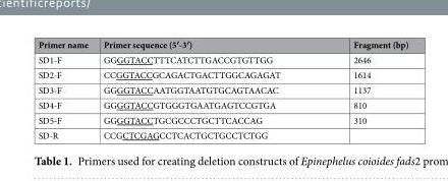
<table><thead><tr><td>Primer name</td><td>Primer sequence (5′-3′)</td><td>Fragment (bp)</td></tr></thead><tbody><tr><td>SD1-F</td><td>GGGGTACCTTTCATCTTGACCGTGTTGG</td><td>2646</td></tr><tr><td>SD2-F</td><td>CCGGTACCGCAGACTGACTTGGCAGAGAT</td><td>1614</td></tr><tr><td>SD3-F</td><td>GGGGTACCAATGGTAATGTGCAGTAACAC</td><td>1137</td></tr><tr><td>SD4-F</td><td>GGGGTACCGTGGGTGAATGAGTCCGTGA</td><td>810</td></tr><tr><td>SD5-F</td><td>GGGGTACCTGCGCCCTGCTTCACCAG</td><td>310</td></tr><tr><td>SD-R</td><td>CCGCTCGAGCCTCACTGCTGCCTCTGG</td><td></td></tr></tbody></table>